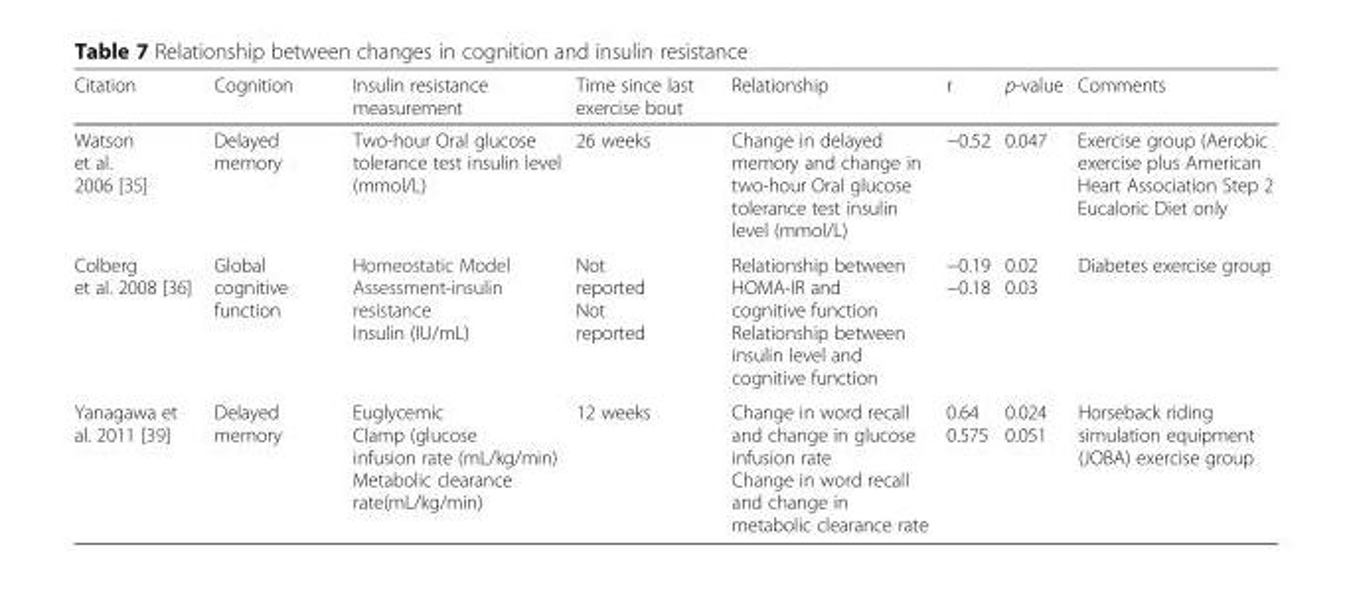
<table><thead><tr><td>Citation</td><td>Cognition</td><td>Insulin resistance measurement</td><td>Time since last exercise bout</td><td>Relationship</td><td>r</td><td>p-value</td><td>Comments</td></tr></thead><tbody><tr><td>Watson et al. 2006 [35]</td><td>Delayed memory</td><td>Two-hour Oral glucose tolerance test insulin level (mmol/L)</td><td>26 weeks</td><td>Change in delayed memory and change in two-hour Oral glucose tolerance test insulin level (mmol/L)</td><td>−0.52</td><td>0.047</td><td>Exercise group (Aerobic exercise plus American Heart Association Step 2 Eucaloric Diet only</td></tr><tr><td>Colberg et al. 2008 [36]</td><td>Global cognitive function</td><td>Homeostatic Model Assessment-insulin resistance Insulin (IU/mL)</td><td>Not reported Not reported</td><td>Relationship between HOMA-IR and cognitive function Relationship between insulin level and cognitive function</td><td>−0.19 −0.18</td><td>0.02 0.03</td><td>Diabetes exercise group</td></tr><tr><td>Yanagawa et al. 2011 [39]</td><td>Delayed memory</td><td>Euglycemic Clamp (glucose infusion rate (mL/kg/min) Metabolic clearance rate(mL/kg/min)</td><td>12 weeks</td><td>Change in word recall and change in glucose infusion rate Change in word recall and change in metabolic clearance rate</td><td>0.64 0.575</td><td>0.024 0.051</td><td>Horseback riding simulation equipment (JOBA) exercise group</td></tr></tbody></table>